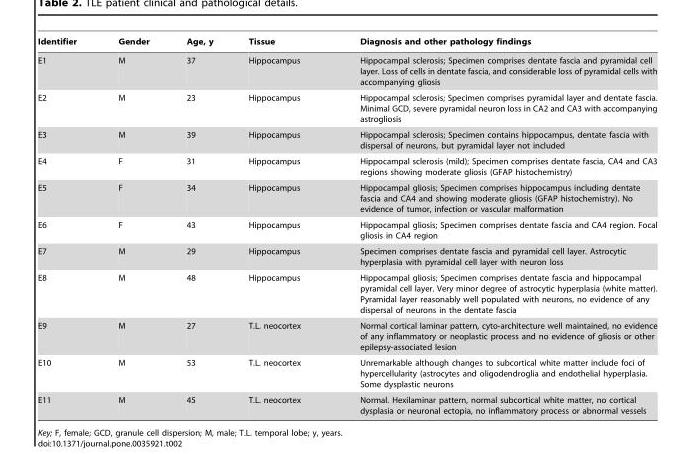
<table><thead><tr><td>Identifier</td><td>Gender</td><td>Age, y</td><td>Tissue</td><td>Diagnosis and other pathology findings</td></tr></thead><tbody><tr><td>E1</td><td>M</td><td>37</td><td>Hippocampus</td><td>Hippocampal sclerosis; Specimen comprises dentate fascia and pyramidal cell layer. Loss of cells in dentate fascia, and considerable loss of pyramidal cells with accompanying gliosis</td></tr><tr><td>E2</td><td>M</td><td>23</td><td>Hippocampus</td><td>Hippocampal sclerosis; Specimen comprises pyramidal layer and dentate fascia. Minimal GCD, severe pyramidal neuron loss in CA2 and CA3 with accompanying astrogliosis</td></tr><tr><td>E3</td><td>M</td><td>39</td><td>Hippocampus</td><td>Hippocampal sclerosis; Specimen contains hippocampus, dentate fascia with dispersal of neurons, but pyramidal layer not included</td></tr><tr><td>E4</td><td>F</td><td>31</td><td>Hippocampus</td><td>Hippocampal sclerosis (mild); Specimen comprises dentate fascia, CA4 and CA3 regions showing moderate gliosis (GFAP histochemistry)</td></tr><tr><td>E5</td><td>F</td><td>34</td><td>Hippocampus</td><td>Hippocampal gliosis; Specimen comprises hippocampus including dentate fascia and CA4 and showing moderate gliosis (GFAP histochemistry). No evidence of tumor, infection or vascular malformation</td></tr><tr><td>E6</td><td>F</td><td>43</td><td>Hippocampus</td><td>Hippocampal gliosis; Specimen comprises dentate fascia and CA4 region. Focal gliosis in CA4 region</td></tr><tr><td>E7</td><td>M</td><td>29</td><td>Hippocampus</td><td>Specimen comprises dentate fascia and pyramidal cell layer. Astrocytic hyperplasia with pyramidal cell layer with neuron loss</td></tr><tr><td>E8</td><td>M</td><td>48</td><td>Hippocampus</td><td>Hippocampal gliosis; Specimen comprises dentate fascia and hippocampal pyramidal cell layer. Very minor degree of astrocytic hyperplasia (white matter). Pyramidal layer reasonably well populated with neurons, no evidence of any dispersal of neurons in the dentate fascia</td></tr><tr><td>E9</td><td>M</td><td>27</td><td>T.L. neocortex</td><td>Normal cortical laminar pattern, cyto-architecture well maintained, no evidence of any inflammatory or neoplastic process and no evidence of gliosis or other epilepsy-associated lesion</td></tr><tr><td>E10</td><td>M</td><td>53</td><td>T.L. neocortex</td><td>Unremarkable although changes to subcortical white matter include foci of hypercellularity (astrocytes and oligodendroglia and endothelial hyperplasia. Some dysplastic neurons</td></tr><tr><td>E11</td><td>M</td><td>45</td><td>T.L. neocortex</td><td>Normal. Hexilaminar pattern, normal subcortical white matter, no cortical dysplasia or neuronal ectopia, no inflammatory process or abnormal vessels</td></tr></tbody></table>